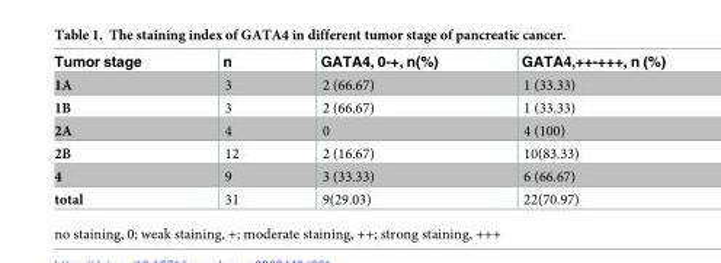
<table><thead><tr><td>Tumor stage</td><td>n</td><td>GATA4, 0-+, n(%)</td><td>GATA4,++-+++, n (%)</td></tr></thead><tbody><tr><td>1A</td><td>3</td><td>2 (66.67)</td><td>1 (33.33)</td></tr><tr><td>1B</td><td>3</td><td>2 (66.67)</td><td>1 (33.33)</td></tr><tr><td>2A</td><td>4</td><td>0</td><td>4 (100)</td></tr><tr><td>2B</td><td>12</td><td>2 (16.67)</td><td>10(83.33)</td></tr><tr><td>4</td><td>9</td><td>3 (33.33)</td><td>6 (66.67)</td></tr><tr><td>total</td><td>31</td><td>9(29.03)</td><td>22(70.97)</td></tr></tbody></table>